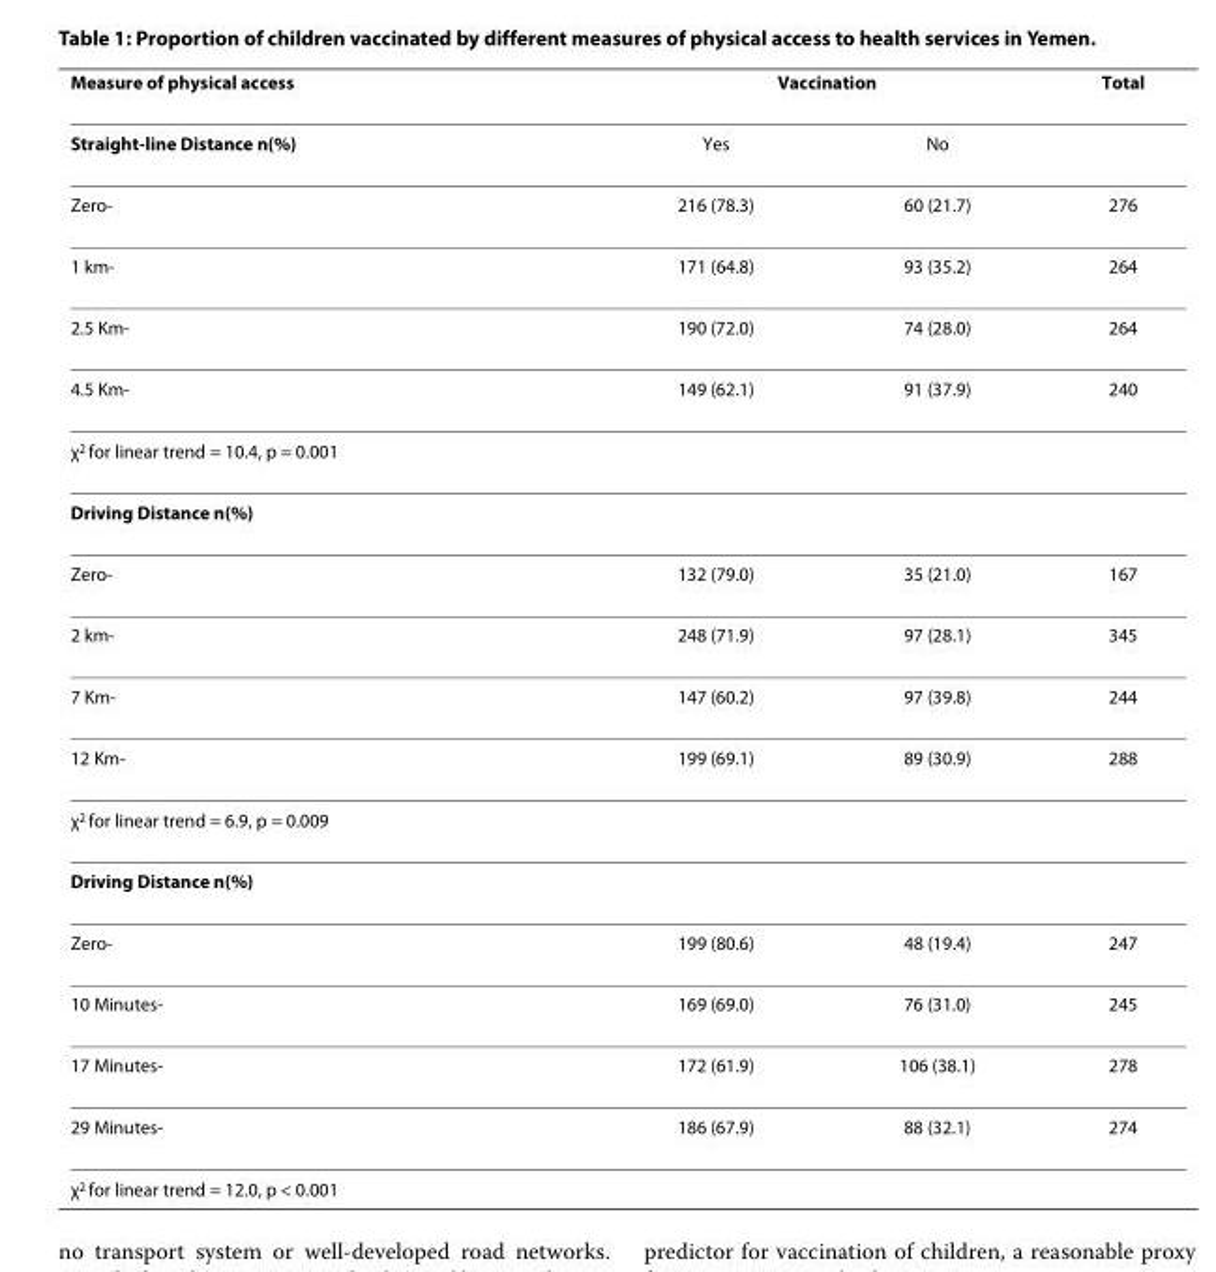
<table><thead><tr><td rowspan="2">Measure of physical access Straight-line Distance n(%)</td><td colspan="2">Vaccination</td><td rowspan="2">Total</td></tr><tr><td>Yes</td><td>No</td></tr></thead><tbody><tr><td>Zero-</td><td>216 (78.3)</td><td>60 (21.7)</td><td>276</td></tr><tr><td>1 km-</td><td>171 (64.8)</td><td>93 (35.2)</td><td>264</td></tr><tr><td>2.5 Km-</td><td>190 (72.0)</td><td>74 (28.0)</td><td>264</td></tr><tr><td>4.5 Km-</td><td>149 (62.1)</td><td>91 (37.9)</td><td>240</td></tr><tr><td colspan="4">χ<sup>2</sup> for linear trend = 10.4, p = 0.001</td></tr><tr><td colspan="4">Driving Distance n(%)</td></tr><tr><td>Zero-</td><td>132 (79.0)</td><td>35 (21.0)</td><td>167</td></tr><tr><td>2 km-</td><td>248 (71.9)</td><td>97 (28.1)</td><td>345</td></tr><tr><td>7 Km-</td><td>147 (60.2)</td><td>97 (39.8)</td><td>244</td></tr><tr><td>12 Km-</td><td>199 (69.1)</td><td>89 (30.9)</td><td>288</td></tr><tr><td colspan="4">χ<sup>2</sup> for linear trend = 6.9, p = 0.009</td></tr><tr><td colspan="4">Driving Distance n(%)</td></tr><tr><td>Zero-</td><td>199 (80.6)</td><td>48 (19.4)</td><td>247</td></tr><tr><td>10 Minutes-</td><td>169 (69.0)</td><td>76 (31.0)</td><td>245</td></tr><tr><td>17 Minutes-</td><td>172 (61.9)</td><td>106 (38.1)</td><td>278</td></tr><tr><td>29 Minutes-</td><td>186 (67.9)</td><td>88 (32.1)</td><td>274</td></tr><tr><td colspan="4">χ<sup>2</sup> for linear trend = 12.0, p &lt; 0.001</td></tr></tbody></table>